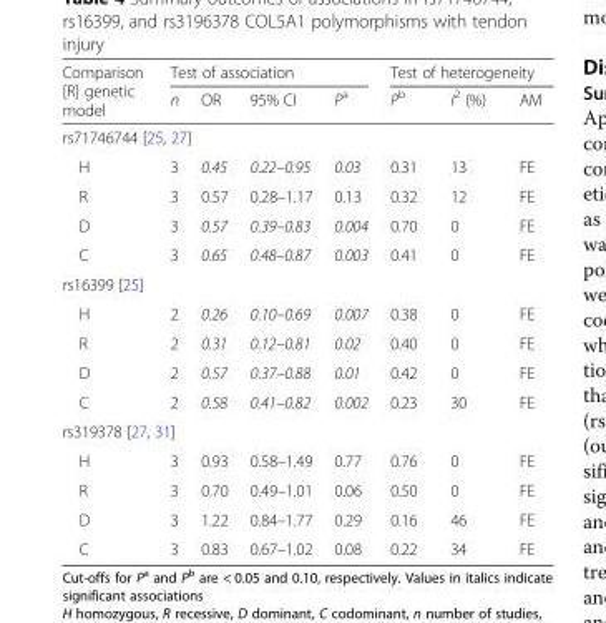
<table><thead><tr><td rowspan="2">Comparison [R] genetic model</td><td colspan="4">Test of association</td><td colspan="3">Test of heterogeneity</td></tr><tr><td>n</td><td>OR</td><td>95% CI</td><td>P<sup>a</sup></td><td>P<sup>b</sup></td><td>I<sup>2</sup> (%)</td><td>AM</td></tr></thead><tbody><tr><td colspan="8">rs71746744 [25, 27]</td></tr><tr><td>H</td><td>3</td><td>0.45</td><td>0.22–0.95</td><td>0.03</td><td>0.31</td><td>13</td><td>FE</td></tr><tr><td>R</td><td>3</td><td>0.57</td><td>0.28–1.17</td><td>0.13</td><td>0.32</td><td>12</td><td>FE</td></tr><tr><td>D</td><td>3</td><td>0.57</td><td>0.39–0.83</td><td>0.004</td><td>0.70</td><td>0</td><td>FE</td></tr><tr><td>C</td><td>3</td><td>0.65</td><td>0.48–0.87</td><td>0.003</td><td>0.41</td><td>0</td><td>FE</td></tr><tr><td colspan="8">rs16399 [25]</td></tr><tr><td>H</td><td>2</td><td>0.26</td><td>0.10–0.69</td><td>0.007</td><td>0.38</td><td>0</td><td>FE</td></tr><tr><td>R</td><td>2</td><td>0.31</td><td>0.12–0.81</td><td>0.02</td><td>0.40</td><td>0</td><td>FE</td></tr><tr><td>D</td><td>2</td><td>0.57</td><td>0.37–0.88</td><td>0.01</td><td>0.42</td><td>0</td><td>FE</td></tr><tr><td>C</td><td>2</td><td>0.58</td><td>0.41–0.82</td><td>0.002</td><td>0.23</td><td>30</td><td>FE</td></tr><tr><td colspan="8">rs319378 [27, 31]</td></tr><tr><td>H</td><td>3</td><td>0.93</td><td>0.58–1.49</td><td>0.77</td><td>0.76</td><td>0</td><td>FE</td></tr><tr><td>R</td><td>3</td><td>0.70</td><td>0.49–1.01</td><td>0.06</td><td>0.50</td><td>0</td><td>FE</td></tr><tr><td>D</td><td>3</td><td>1.22</td><td>0.84–1.77</td><td>0.29</td><td>0.16</td><td>46</td><td>FE</td></tr><tr><td>C</td><td>3</td><td>0.83</td><td>0.67–1.02</td><td>0.08</td><td>0.22</td><td>34</td><td>FE</td></tr></tbody></table>